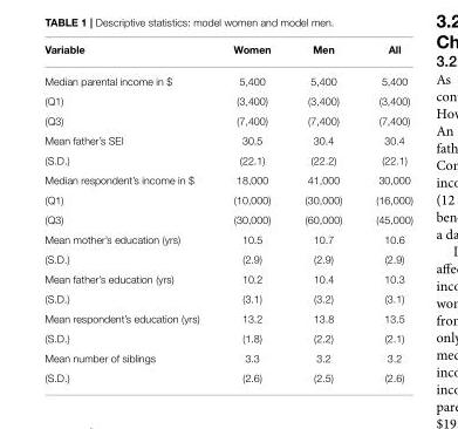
<table><thead><tr><td>Variable</td><td>Women</td><td>Men</td><td>All</td></tr></thead><tbody><tr><td>Median parental income in $</td><td>5,400</td><td>5,400</td><td>5,400</td></tr><tr><td>(Q1)</td><td>(3,400)</td><td>(3,400)</td><td>(3,400)</td></tr><tr><td>(Q3)</td><td>(7,400)</td><td>(7,400)</td><td>(7,400)</td></tr><tr><td>Mean father’s SEI</td><td>30.5</td><td>30.4</td><td>30.4</td></tr><tr><td>(S.D.)</td><td>(22.1)</td><td>(22.2)</td><td>(22.1)</td></tr><tr><td>Median respondent’s income in $</td><td>18,000</td><td>41,000</td><td>30,000</td></tr><tr><td>(Q1)</td><td>(10,000)</td><td>(30,000)</td><td>(16,000)</td></tr><tr><td>(Q3)</td><td>(30,000)</td><td>(60,000)</td><td>(45,000)</td></tr><tr><td>Mean mother’s education (yrs)</td><td>10.5</td><td>10.7</td><td>10.6</td></tr><tr><td>(S.D.)</td><td>(2.9)</td><td>(2.9)</td><td>(2.9)</td></tr><tr><td>Mean father’s education (yrs)</td><td>10.2</td><td>10.4</td><td>10.3</td></tr><tr><td>(S.D.)</td><td>(3.1)</td><td>(3.2)</td><td>(3.1)</td></tr><tr><td>Mean respondent’s education (yrs)</td><td>13.2</td><td>13.8</td><td>13.5</td></tr><tr><td>(S.D.)</td><td>(1.8)</td><td>(2.2)</td><td>(2.1)</td></tr><tr><td>Mean number of siblings</td><td>3.3</td><td>3.2</td><td>3.2</td></tr><tr><td>(S.D.)</td><td>(2.6)</td><td>(2.5)</td><td>(2.6)</td></tr></tbody></table>